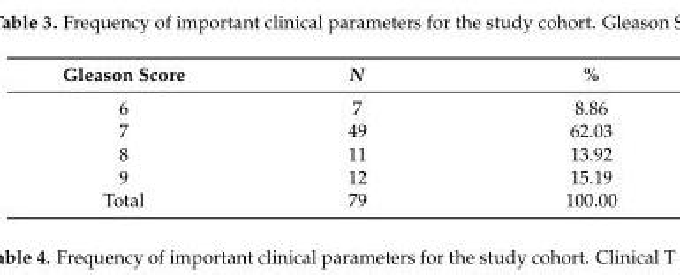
<table><thead><tr><td>Gleason Score</td><td>N</td><td>%</td></tr></thead><tbody><tr><td>6</td><td>7</td><td>8.86</td></tr><tr><td>7</td><td>49</td><td>62.03</td></tr><tr><td>8</td><td>11</td><td>13.92</td></tr><tr><td>9</td><td>12</td><td>15.19</td></tr><tr><td>Total</td><td>79</td><td>100.00</td></tr></tbody></table>